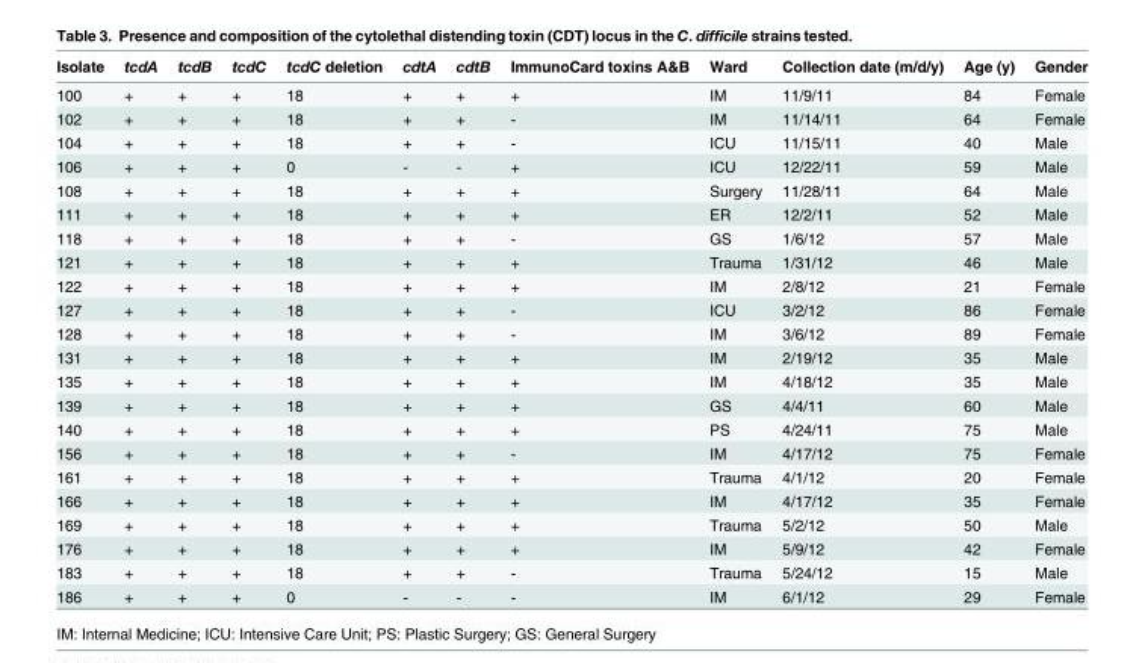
<table><thead><tr><td>Isolate</td><td>tcdA</td><td>tcdB</td><td>tcdC</td><td>tcdC deletion</td><td>cdtA</td><td>cdtB</td><td>ImmunoCard toxins A&amp;B</td><td>Ward</td><td>Collection date (m/d/y)</td><td>Age (y)</td><td>Gender</td></tr></thead><tbody><tr><td>100</td><td>+</td><td>+</td><td>+</td><td>18</td><td>+</td><td>+</td><td>+</td><td>IM</td><td>11/9/11</td><td>84</td><td>Female</td></tr><tr><td>102</td><td>+</td><td>+</td><td>+</td><td>18</td><td>+</td><td>+</td><td>-</td><td>IM</td><td>11/14/11</td><td>64</td><td>Female</td></tr><tr><td>104</td><td>+</td><td>+</td><td>+</td><td>18</td><td>+</td><td>+</td><td>-</td><td>ICU</td><td>11/15/11</td><td>40</td><td>Male</td></tr><tr><td>106</td><td>+</td><td>+</td><td>+</td><td>0</td><td>-</td><td>-</td><td>+</td><td>ICU</td><td>12/22/11</td><td>59</td><td>Male</td></tr><tr><td>108</td><td>+</td><td>+</td><td>+</td><td>18</td><td>+</td><td>+</td><td>+</td><td>Surgery</td><td>11/28/11</td><td>64</td><td>Male</td></tr><tr><td>111</td><td>+</td><td>+</td><td>+</td><td>18</td><td>+</td><td>+</td><td>+</td><td>ER</td><td>12/2/11</td><td>52</td><td>Male</td></tr><tr><td>118</td><td>+</td><td>+</td><td>+</td><td>18</td><td>+</td><td>+</td><td>-</td><td>GS</td><td>1/6/12</td><td>57</td><td>Male</td></tr><tr><td>121</td><td>+</td><td>+</td><td>+</td><td>18</td><td>+</td><td>+</td><td>+</td><td>Trauma</td><td>1/31/12</td><td>46</td><td>Male</td></tr><tr><td>122</td><td>+</td><td>+</td><td>+</td><td>18</td><td>+</td><td>+</td><td>+</td><td>IM</td><td>2/8/12</td><td>21</td><td>Female</td></tr><tr><td>127</td><td>+</td><td>+</td><td>+</td><td>18</td><td>+</td><td>+</td><td>-</td><td>ICU</td><td>3/2/12</td><td>86</td><td>Female</td></tr><tr><td>128</td><td>+</td><td>+</td><td>+</td><td>18</td><td>+</td><td>+</td><td>-</td><td>IM</td><td>3/6/12</td><td>89</td><td>Female</td></tr><tr><td>131</td><td>+</td><td>+</td><td>+</td><td>18</td><td>+</td><td>+</td><td>+</td><td>IM</td><td>2/19/12</td><td>35</td><td>Male</td></tr><tr><td>135</td><td>+</td><td>+</td><td>+</td><td>18</td><td>+</td><td>+</td><td>+</td><td>IM</td><td>4/18/12</td><td>35</td><td>Male</td></tr><tr><td>139</td><td>+</td><td>+</td><td>+</td><td>18</td><td>+</td><td>+</td><td>+</td><td>GS</td><td>4/4/11</td><td>60</td><td>Male</td></tr><tr><td>140</td><td>+</td><td>+</td><td>+</td><td>18</td><td>+</td><td>+</td><td>+</td><td>PS</td><td>4/24/11</td><td>75</td><td>Male</td></tr><tr><td>156</td><td>+</td><td>+</td><td>+</td><td>18</td><td>+</td><td>+</td><td>-</td><td>IM</td><td>4/17/12</td><td>75</td><td>Female</td></tr><tr><td>161</td><td>+</td><td>+</td><td>+</td><td>18</td><td>+</td><td>+</td><td>+</td><td>Trauma</td><td>4/1/12</td><td>20</td><td>Female</td></tr><tr><td>166</td><td>+</td><td>+</td><td>+</td><td>18</td><td>+</td><td>+</td><td>+</td><td>IM</td><td>4/17/12</td><td>35</td><td>Female</td></tr><tr><td>169</td><td>+</td><td>+</td><td>+</td><td>18</td><td>+</td><td>+</td><td>+</td><td>Trauma</td><td>5/2/12</td><td>50</td><td>Male</td></tr><tr><td>176</td><td>+</td><td>+</td><td>+</td><td>18</td><td>+</td><td>+</td><td>+</td><td>IM</td><td>5/9/12</td><td>42</td><td>Female</td></tr><tr><td>183</td><td>+</td><td>+</td><td>+</td><td>18</td><td>+</td><td>+</td><td>-</td><td>Trauma</td><td>5/24/12</td><td>15</td><td>Male</td></tr><tr><td>186</td><td>+</td><td>+</td><td>+</td><td>0</td><td>-</td><td>-</td><td>-</td><td>IM</td><td>6/1/12</td><td>29</td><td>Female</td></tr></tbody></table>